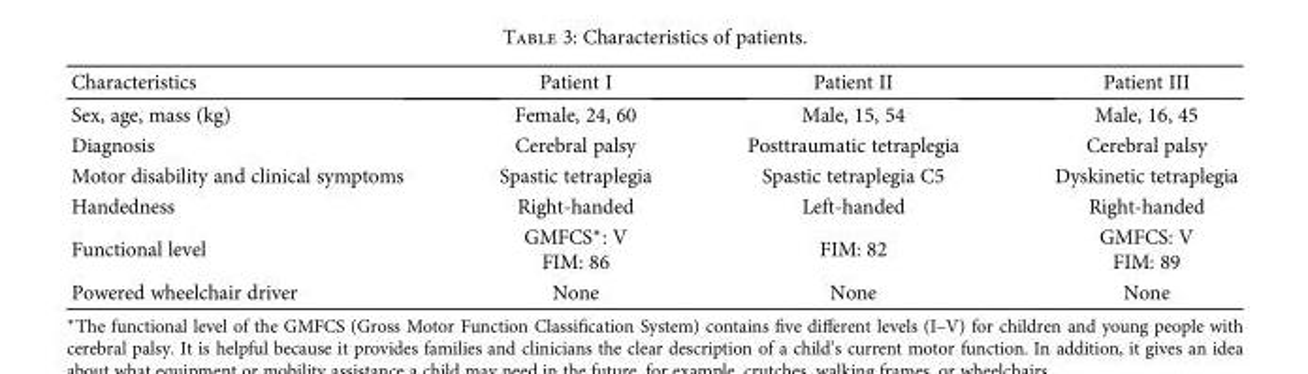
<table><thead><tr><td>Characteristics</td><td>Patient I</td><td>Patient II</td><td>Patient III</td></tr></thead><tbody><tr><td>Sex, age, mass (kg)</td><td>Female, 24, 60</td><td>Male, 15, 54</td><td>Male, 16, 45</td></tr><tr><td>Diagnosis</td><td>Cerebral palsy</td><td>Posttraumatic tetraplegia</td><td>Cerebral palsy</td></tr><tr><td>Motor disability and clinical symptoms</td><td>Spastic tetraplegia</td><td>Spastic tetraplegia C5</td><td>Dyskinetic tetraplegia</td></tr><tr><td>Handedness</td><td>Right-handed</td><td>Left-handed</td><td>Right-handed</td></tr><tr><td>Functional level</td><td>GMFCS∗: V FIM: 86</td><td>FIM: 82</td><td>GMFCS: V FIM: 89</td></tr><tr><td>Powered wheelchair driver</td><td>None</td><td>None</td><td>None</td></tr></tbody></table>